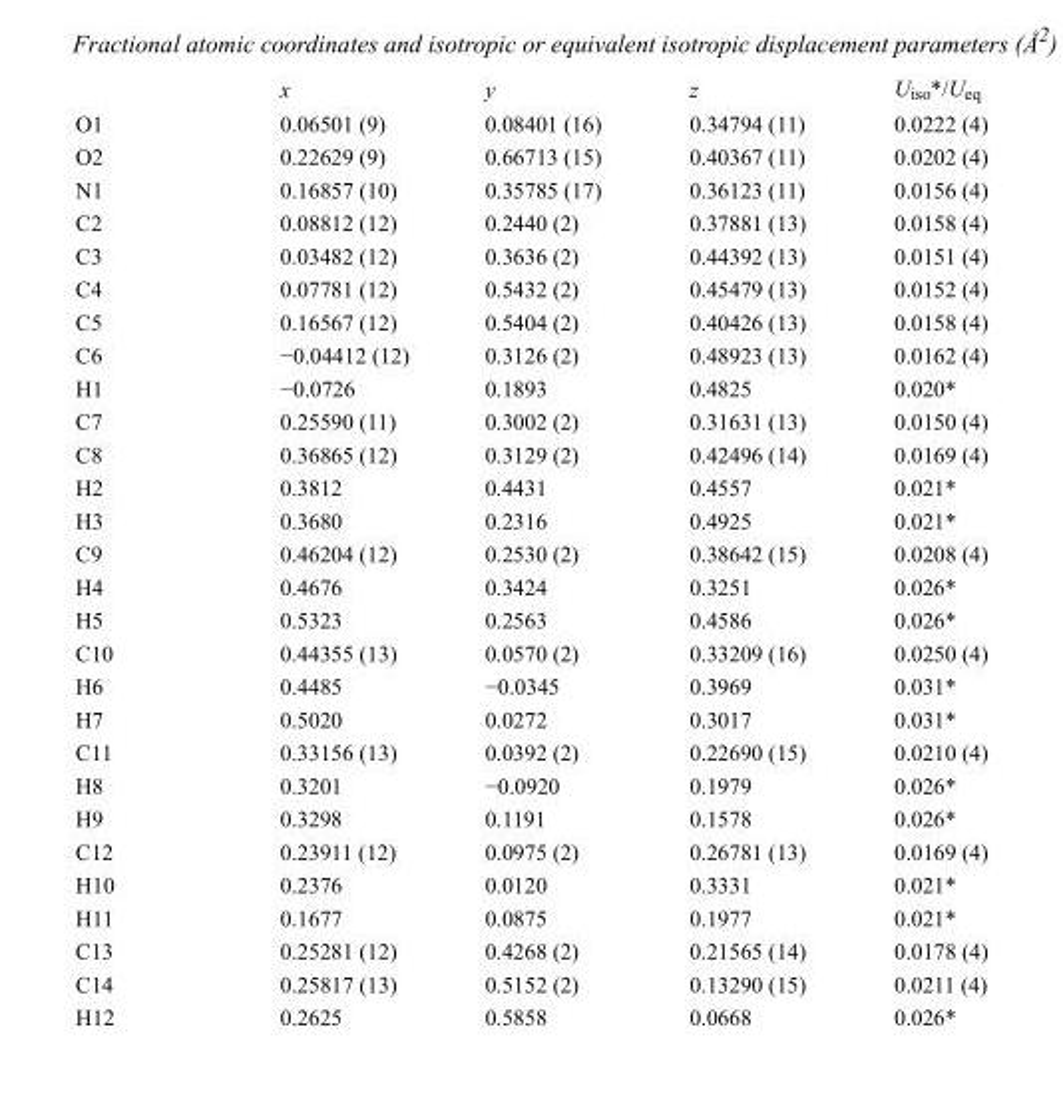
<table><thead><tr><td></td><td>x</td><td>y</td><td>z</td><td>U<sub>iso</sub>*/U<sub>eq</sub></td></tr></thead><tbody><tr><td>O1</td><td>0.06501 (9)</td><td>0.08401 (16)</td><td>0.34794 (11)</td><td>0.0222 (4)</td></tr><tr><td>O2</td><td>0.22629 (9)</td><td>0.66713 (15)</td><td>0.40367 (11)</td><td>0.0202 (4)</td></tr><tr><td>N1</td><td>0.16857 (10)</td><td>0.35785 (17)</td><td>0.36123 (11)</td><td>0.0156 (4)</td></tr><tr><td>C2</td><td>0.08812 (12)</td><td>0.2440 (2)</td><td>0.37881 (13)</td><td>0.0158 (4)</td></tr><tr><td>C3</td><td>0.03482 (12)</td><td>0.3636 (2)</td><td>0.44392 (13)</td><td>0.0151 (4)</td></tr><tr><td>C4</td><td>0.07781 (12)</td><td>0.5432 (2)</td><td>0.45479 (13)</td><td>0.0152 (4)</td></tr><tr><td>C5</td><td>0.16567 (12)</td><td>0.5404 (2)</td><td>0.40426 (13)</td><td>0.0158 (4)</td></tr><tr><td>C6</td><td>−0.04412 (12)</td><td>0.3126 (2)</td><td>0.48923 (13)</td><td>0.0162 (4)</td></tr><tr><td>H1</td><td>−0.0726</td><td>0.1893</td><td>0.4825</td><td>0.020*</td></tr><tr><td>C7</td><td>0.25590 (11)</td><td>0.3002 (2)</td><td>0.31631 (13)</td><td>0.0150 (4)</td></tr><tr><td>C8</td><td>0.36865 (12)</td><td>0.3129 (2)</td><td>0.42496 (14)</td><td>0.0169 (4)</td></tr><tr><td>H2</td><td>0.3812</td><td>0.4431</td><td>0.4557</td><td>0.021*</td></tr><tr><td>H3</td><td>0.3680</td><td>0.2316</td><td>0.4925</td><td>0.021*</td></tr><tr><td>C9</td><td>0.46204 (12)</td><td>0.2530 (2)</td><td>0.38642 (15)</td><td>0.0208 (4)</td></tr><tr><td>H4</td><td>0.4676</td><td>0.3424</td><td>0.3251</td><td>0.026*</td></tr><tr><td>H5</td><td>0.5323</td><td>0.2563</td><td>0.4586</td><td>0.026*</td></tr><tr><td>C10</td><td>0.44355 (13)</td><td>0.0570 (2)</td><td>0.33209 (16)</td><td>0.0250 (4)</td></tr><tr><td>H6</td><td>0.4485</td><td>−0.0345</td><td>0.3969</td><td>0.031*</td></tr><tr><td>H7</td><td>0.5020</td><td>0.0272</td><td>0.3017</td><td>0.031*</td></tr><tr><td>C11</td><td>0.33156 (13)</td><td>0.0392 (2)</td><td>0.22690 (15)</td><td>0.0210 (4)</td></tr><tr><td>H8</td><td>0.3201</td><td>−0.0920</td><td>0.1979</td><td>0.026*</td></tr><tr><td>H9</td><td>0.3298</td><td>0.1191</td><td>0.1578</td><td>0.026*</td></tr><tr><td>C12</td><td>0.23911 (12)</td><td>0.0975 (2)</td><td>0.26781 (13)</td><td>0.0169 (4)</td></tr><tr><td>H10</td><td>0.2376</td><td>0.0120</td><td>0.3331</td><td>0.021*</td></tr><tr><td>H11</td><td>0.1677</td><td>0.0875</td><td>0.1977</td><td>0.021*</td></tr><tr><td>C13</td><td>0.25281 (12)</td><td>0.4268 (2)</td><td>0.21565 (14)</td><td>0.0178 (4)</td></tr><tr><td>C14</td><td>0.25817 (13)</td><td>0.5152 (2)</td><td>0.13290 (15)</td><td>0.0211 (4)</td></tr><tr><td>H12</td><td>0.2625</td><td>0.5858</td><td>0.0668</td><td>0.026*</td></tr></tbody></table>